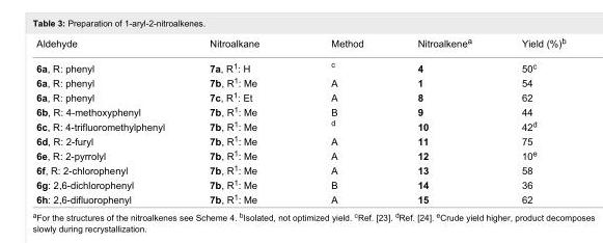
<table><tbody><tr><td>Aldehyde</td><td>Nitroalkane</td><td>Method</td><td>Nitroalkene<sup>a</sup></td><td>Yield (%)<sup>b</sup></td></tr><tr><td>6a, R: phenyl</td><td>7a, R<sup>1</sup>: H</td><td><sup>c</sup></td><td>4</td><td>50<sup>c</sup></td></tr><tr><td>6a, R: phenyl</td><td>7b, R<sup>1</sup>: Me</td><td>A</td><td>1</td><td>54</td></tr><tr><td>6a, R: phenyl</td><td>7c, R<sup>1</sup>: Et</td><td>A</td><td>8</td><td>62</td></tr><tr><td>6b, R: 4-methoxyphenyl</td><td>7b, R<sup>1</sup>: Me</td><td>B</td><td>9</td><td>44</td></tr><tr><td>6c, R: 4-trifluoromethylphenyl</td><td>7b, R<sup>1</sup>: Me</td><td><sup>d</sup></td><td>10</td><td>42<sup>d</sup></td></tr><tr><td>6d, R: 2-furyl</td><td>7b, R<sup>1</sup>: Me</td><td>A</td><td>11</td><td>75</td></tr><tr><td>6e, R: 2-pyrrolyl</td><td>7b, R<sup>1</sup>: Me</td><td>A</td><td>12</td><td>10<sup>e</sup></td></tr><tr><td>6f, R: 2-chlorophenyl</td><td>7b, R<sup>1</sup>: Me</td><td>A</td><td>13</td><td>58</td></tr><tr><td>6g: 2,6-dichlorophenyl</td><td>7b, R<sup>1</sup>: Me</td><td>B</td><td>14</td><td>36</td></tr><tr><td>6h: 2,6-difluorophenyl</td><td>7b, R<sup>1</sup>: Me</td><td>A</td><td>15</td><td>62</td></tr></tbody></table>